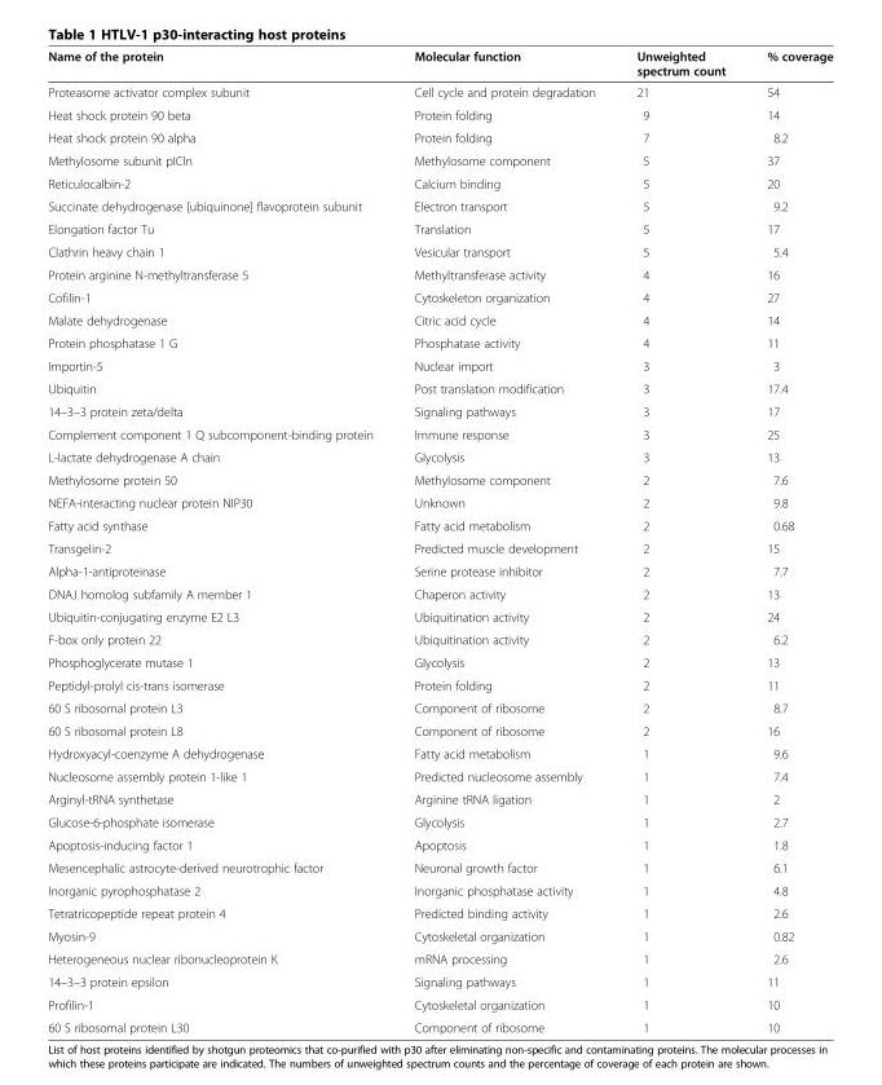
<table><thead><tr><td>Name of the protein</td><td>Molecular function</td><td>Unweighted spectrum count</td><td>% coverage</td></tr></thead><tbody><tr><td>Proteasome activator complex subunit</td><td>Cell cycle and protein degradation</td><td>21</td><td>54</td></tr><tr><td>Heat shock protein 90 beta</td><td>Protein folding</td><td>9</td><td>14</td></tr><tr><td>Heat shock protein 90 alpha</td><td>Protein folding</td><td>7</td><td>8.2</td></tr><tr><td>Methylosome subunit pICln</td><td>Methylosome component</td><td>5</td><td>37</td></tr><tr><td>Reticulocalbin-2</td><td>Calcium binding</td><td>5</td><td>20</td></tr><tr><td>Succinate dehydrogenase [ubiquinone] flavoprotein subunit</td><td>Electron transport</td><td>5</td><td>9.2</td></tr><tr><td>Elongation factor Tu</td><td>Translation</td><td>5</td><td>17</td></tr><tr><td>Clathrin heavy chain 1</td><td>Vesicular transport</td><td>5</td><td>5.4</td></tr><tr><td>Protein arginine N-methyltransferase 5</td><td>Methyltransferase activity</td><td>4</td><td>16</td></tr><tr><td>Cofilin-1</td><td>Cytoskeleton organization</td><td>4</td><td>27</td></tr><tr><td>Malate dehydrogenase</td><td>Citric acid cycle</td><td>4</td><td>14</td></tr><tr><td>Protein phosphatase 1 G</td><td>Phosphatase activity</td><td>4</td><td>11</td></tr><tr><td>Importin-5</td><td>Nuclear import</td><td>3</td><td>3</td></tr><tr><td>Ubiquitin</td><td>Post translation modification</td><td>3</td><td>17.4</td></tr><tr><td>14–3–3 protein zeta/delta</td><td>Signaling pathways</td><td>3</td><td>17</td></tr><tr><td>Complement component 1 Q subcomponent-binding protein</td><td>Immune response</td><td>3</td><td>25</td></tr><tr><td>L-lactate dehydrogenase A chain</td><td>Glycolysis</td><td>3</td><td>13</td></tr><tr><td>Methylosome protein 50</td><td>Methylosome component</td><td>2</td><td>7.6</td></tr><tr><td>NEFA-interacting nuclear protein NIP30</td><td>Unknown</td><td>2</td><td>9.8</td></tr><tr><td>Fatty acid synthase</td><td>Fatty acid metabolism</td><td>2</td><td>0.68</td></tr><tr><td>Transgelin-2</td><td>Predicted muscle development</td><td>2</td><td>15</td></tr><tr><td>Alpha-1-antiproteinase</td><td>Serine protease inhibitor</td><td>2</td><td>7.7</td></tr><tr><td>DNAJ homolog subfamily A member 1</td><td>Chaperon activity</td><td>2</td><td>13</td></tr><tr><td>Ubiquitin-conjugating enzyme E2 L3</td><td>Ubiquitination activity</td><td>2</td><td>24</td></tr><tr><td>F-box only protein 22</td><td>Ubiquitination activity</td><td>2</td><td>6.2</td></tr><tr><td>Phosphoglycerate mutase 1</td><td>Glycolysis</td><td>2</td><td>13</td></tr><tr><td>Peptidyl-prolyl cis-trans isomerase</td><td>Protein folding</td><td>2</td><td>11</td></tr><tr><td>60 S ribosomal protein L3</td><td>Component of ribosome</td><td>2</td><td>8.7</td></tr><tr><td>60 S ribosomal protein L8</td><td>Component of ribosome</td><td>2</td><td>16</td></tr><tr><td>Hydroxyacyl-coenzyme A dehydrogenase</td><td>Fatty acid metabolism</td><td>1</td><td>9.6</td></tr><tr><td>Nucleosome assembly protein 1-like 1</td><td>Predicted nucleosome assembly</td><td>1</td><td>7.4</td></tr><tr><td>Arginyl-tRNA synthetase</td><td>Arginine tRNA ligation</td><td>1</td><td>2</td></tr><tr><td>Glucose-6-phosphate isomerase</td><td>Glycolysis</td><td>1</td><td>2.7</td></tr><tr><td>Apoptosis-inducing factor 1</td><td>Apoptosis</td><td>1</td><td>1.8</td></tr><tr><td>Mesencephalic astrocyte-derived neurotrophic factor</td><td>Neuronal growth factor</td><td>1</td><td>6.1</td></tr><tr><td>Inorganic pyrophosphatase 2</td><td>Inorganic phosphatase activity</td><td>1</td><td>4.8</td></tr><tr><td>Tetratricopeptide repeat protein 4</td><td>Predicted binding activity</td><td>1</td><td>2.6</td></tr><tr><td>Myosin-9</td><td>Cytoskeletal organization</td><td>1</td><td>0.82</td></tr><tr><td>Heterogeneous nuclear ribonucleoprotein K</td><td>mRNA processing</td><td>1</td><td>2.6</td></tr><tr><td>14–3–3 protein epsilon</td><td>Signaling pathways</td><td>1</td><td>11</td></tr><tr><td>Profilin-1</td><td>Cytoskeletal organization</td><td>1</td><td>10</td></tr><tr><td>60 S ribosomal protein L30</td><td>Component of ribosome</td><td>1</td><td>10</td></tr></tbody></table>